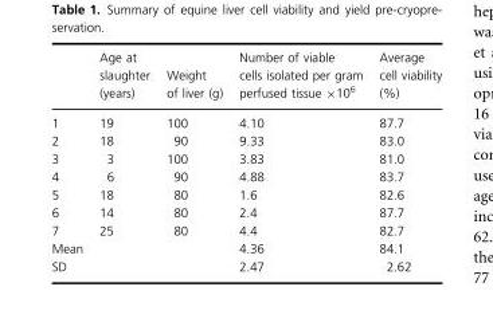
<table><thead><tr><td></td><td>Age at slaughter (years)</td><td>Weight of liver (g)</td><td>Number of viable cells isolated per gram perfused tissue ×10<sup>6</sup></td><td>Average cell viability (%)</td></tr></thead><tbody><tr><td>1</td><td>19</td><td>100</td><td>4.10</td><td>87.7</td></tr><tr><td>2</td><td>18</td><td>90</td><td>9.33</td><td>83.0</td></tr><tr><td>3</td><td>3</td><td>100</td><td>3.83</td><td>81.0</td></tr><tr><td>4</td><td>6</td><td>90</td><td>4.88</td><td>83.7</td></tr><tr><td>5</td><td>18</td><td>80</td><td>1.6</td><td>82.6</td></tr><tr><td>6</td><td>14</td><td>80</td><td>2.4</td><td>87.7</td></tr><tr><td>7</td><td>25</td><td>80</td><td>4.4</td><td>82.7</td></tr><tr><td>Mean</td><td></td><td></td><td>4.36</td><td>84.1</td></tr><tr><td>SD</td><td></td><td></td><td>2.47</td><td>2.62</td></tr></tbody></table>